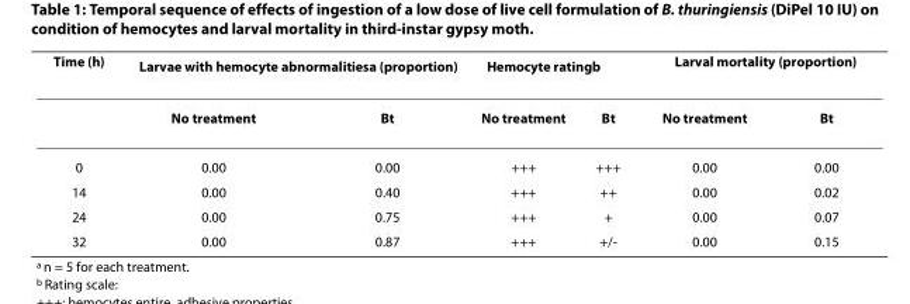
<table><thead><tr><td rowspan="2">Time (h)</td><td colspan="2">Larvae with hemocyte abnormalities<sup>a</sup> (proportion)</td><td colspan="2">Hemocyte rating<sup>b</sup></td><td colspan="2">Larval mortality (proportion)</td></tr><tr><td>No treatment</td><td>Bt</td><td>No treatment</td><td>Bt</td><td>No treatment</td><td>Bt</td></tr></thead><tbody><tr><td>0</td><td>0.00</td><td>0.00</td><td>+++</td><td>+++</td><td>0.00</td><td>0.00</td></tr><tr><td>14</td><td>0.00</td><td>0.40</td><td>+++</td><td>++</td><td>0.00</td><td>0.02</td></tr><tr><td>24</td><td>0.00</td><td>0.75</td><td>+++</td><td>+</td><td>0.00</td><td>0.07</td></tr><tr><td>32</td><td>0.00</td><td>0.87</td><td>+++</td><td>+/-</td><td>0.00</td><td>0.15</td></tr></tbody></table>